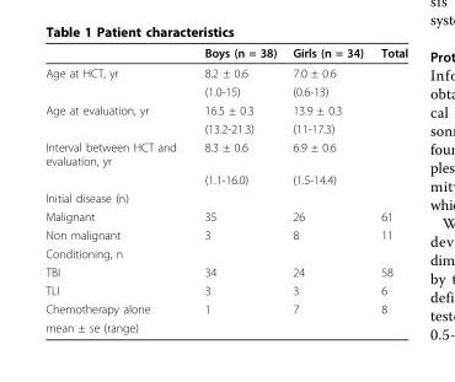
<table><thead><tr><td></td><td>Boys (n = 38)</td><td>Girls (n = 34)</td><td>Total</td></tr></thead><tbody><tr><td rowspan="2">Age at HCT, yr</td><td>8.2 ± 0.6</td><td>7.0 ± 0.6</td><td></td></tr><tr><td>(1.0-15)</td><td>(0.6-13)</td><td></td></tr><tr><td rowspan="2">Age at evaluation, yr</td><td>16.5 ± 0.3</td><td>13.9 ± 0.3</td><td></td></tr><tr><td>(13.2-21.3)</td><td>(11-17.3)</td><td></td></tr><tr><td rowspan="2">Interval between HCT and evaluation, yr</td><td>8.3 ± 0.6</td><td>6.9 ± 0.6</td><td></td></tr><tr><td>(1.1-16.0)</td><td>(1.5-14.4)</td><td></td></tr><tr><td colspan="4">Initial disease (n)</td></tr><tr><td>Malignant</td><td>35</td><td>26</td><td>61</td></tr><tr><td>Non malignant</td><td>3</td><td>8</td><td>11</td></tr><tr><td colspan="4">Conditioning, n</td></tr><tr><td>TBI</td><td>34</td><td>24</td><td>58</td></tr><tr><td>TLI</td><td>3</td><td>3</td><td>6</td></tr><tr><td>Chemotherapy alone</td><td>1</td><td>7</td><td>8</td></tr><tr><td>mean ± se (range)</td><td></td><td></td><td></td></tr></tbody></table>